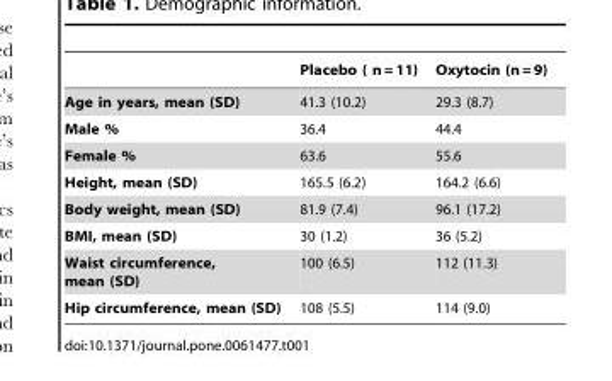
<table><thead><tr><td></td><td>Placebo ( n = 11)</td><td>Oxytocin (n = 9)</td></tr></thead><tbody><tr><td>Age in years, mean (SD)</td><td>41.3 (10.2)</td><td>29.3 (8.7)</td></tr><tr><td>Male %</td><td>36.4</td><td>44.4</td></tr><tr><td>Female %</td><td>63.6</td><td>55.6</td></tr><tr><td>Height, mean (SD)</td><td>165.5 (6.2)</td><td>164.2 (6.6)</td></tr><tr><td>Body weight, mean (SD)</td><td>81.9 (7.4)</td><td>96.1 (17.2)</td></tr><tr><td>BMI, mean (SD)</td><td>30 (1.2)</td><td>36 (5.2)</td></tr><tr><td>Waist circumference, mean (SD)</td><td>100 (6.5)</td><td>112 (11.3)</td></tr><tr><td>Hip circumference, mean (SD)</td><td>108 (5.5)</td><td>114 (9.0)</td></tr></tbody></table>